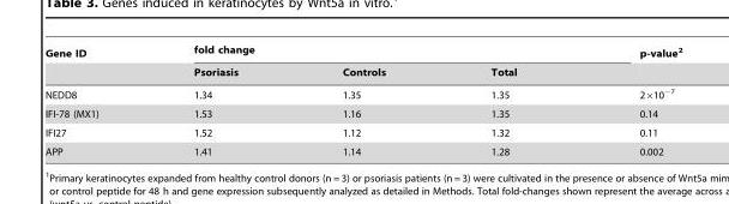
<table><thead><tr><td rowspan="2">Gene ID</td><td colspan="3">fold change</td><td rowspan="2">p-value<sup>2</sup></td></tr><tr><td>Psoriasis</td><td>Controls</td><td>Total</td></tr></thead><tbody><tr><td>NEDD8</td><td>1.34</td><td>1.35</td><td>1.35</td><td>2×10<sup>−7</sup></td></tr><tr><td>IFI-78 (MX1)</td><td>1.53</td><td>1.16</td><td>1.35</td><td>0.14</td></tr><tr><td>IFI27</td><td>1.52</td><td>1.12</td><td>1.32</td><td>0.11</td></tr><tr><td>APP</td><td>1.41</td><td>1.14</td><td>1.28</td><td>0.002</td></tr></tbody></table>